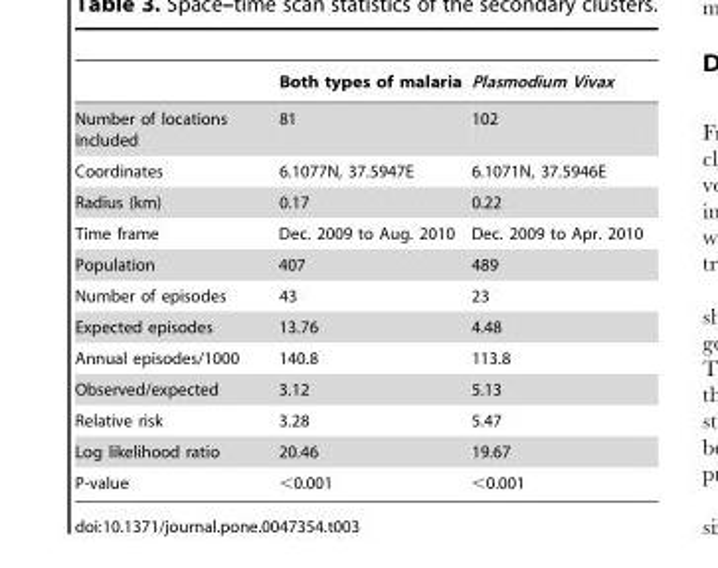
<table><thead><tr><td></td><td>Both types of malaria</td><td>Plasmodium Vivax</td></tr></thead><tbody><tr><td>Number of locations included</td><td>81</td><td>102</td></tr><tr><td>Coordinates</td><td>6.1077N, 37.5947E</td><td>6.1071N, 37.5946E</td></tr><tr><td>Radius (km)</td><td>0.17</td><td>0.22</td></tr><tr><td>Time frame</td><td>Dec. 2009 to Aug. 2010</td><td>Dec. 2009 to Apr. 2010</td></tr><tr><td>Population</td><td>407</td><td>489</td></tr><tr><td>Number of episodes</td><td>43</td><td>23</td></tr><tr><td>Expected episodes</td><td>13.76</td><td>4.48</td></tr><tr><td>Annual episodes/1000</td><td>140.8</td><td>113.8</td></tr><tr><td>Observed/expected</td><td>3.12</td><td>5.13</td></tr><tr><td>Relative risk</td><td>3.28</td><td>5.47</td></tr><tr><td>Log likelihood ratio</td><td>20.46</td><td>19.67</td></tr><tr><td>P-value</td><td>&lt;0.001</td><td>&lt;0.001</td></tr></tbody></table>